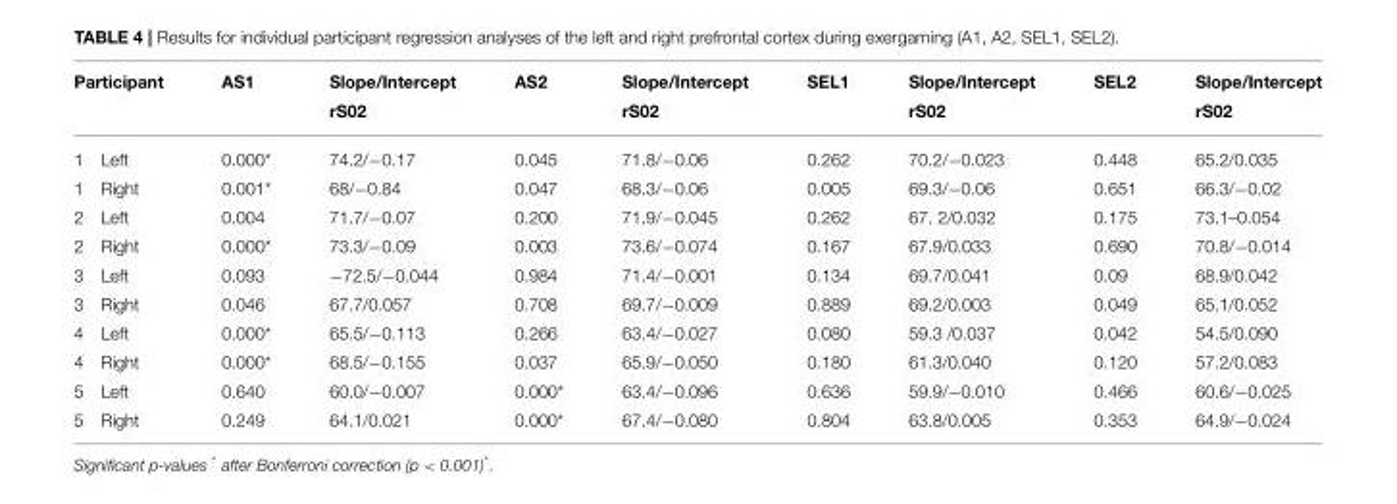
<table><thead><tr><td>Participant</td><td>AS1</td><td>Slope/Intercept rS02</td><td>AS2</td><td>Slope/Intercept rS02</td><td>SEL1</td><td>Slope/Intercept rS02</td><td>SEL2</td><td>Slope/Intercept rS02</td></tr></thead><tbody><tr><td>1 Left</td><td>0.000*</td><td>74.2/−0.17</td><td>0.045</td><td>71.8/−0.06</td><td>0.262</td><td>70.2/−0.023</td><td>0.448</td><td>65.2/0.035</td></tr><tr><td>1 Right</td><td>0.001*</td><td>68/−0.84</td><td>0.047</td><td>68.3/−0.06</td><td>0.005</td><td>69.3/−0.06</td><td>0.651</td><td>66.3/−0.02</td></tr><tr><td>2 Left</td><td>0.004</td><td>71.7/−0.07</td><td>0.200</td><td>71.9/−0.045</td><td>0.262</td><td>67. 2/0.032</td><td>0.175</td><td>73.1–0.054</td></tr><tr><td>2 Right</td><td>0.000*</td><td>73.3/−0.09</td><td>0.003</td><td>73.6/−0.074</td><td>0.167</td><td>67.9/0.033</td><td>0.690</td><td>70.8/−0.014</td></tr><tr><td>3 Left</td><td>0.093</td><td>−72.5/−0.044</td><td>0.984</td><td>71.4/−0.001</td><td>0.134</td><td>69.7/0.041</td><td>0.09</td><td>68.9/0.042</td></tr><tr><td>3 Right</td><td>0.046</td><td>67.7/0.057</td><td>0.708</td><td>69.7/−0.009</td><td>0.889</td><td>69.2/0.003</td><td>0.049</td><td>65.1/0.052</td></tr><tr><td>4 Left</td><td>0.000*</td><td>65.5/−0.113</td><td>0.266</td><td>63.4/−0.027</td><td>0.080</td><td>59.3 /0.037</td><td>0.042</td><td>54.5/0.090</td></tr><tr><td>4 Right</td><td>0.000*</td><td>68.5/−0.155</td><td>0.037</td><td>65.9/−0.050</td><td>0.180</td><td>61.3/0.040</td><td>0.120</td><td>57.2/0.083</td></tr><tr><td>5 Left</td><td>0.640</td><td>60.0/−0.007</td><td>0.000*</td><td>63.4/−0.096</td><td>0.636</td><td>59.9/−0.010</td><td>0.466</td><td>60.6/−0.025</td></tr><tr><td>5 Right</td><td>0.249</td><td>64.1/0.021</td><td>0.000*</td><td>67.4/−0.080</td><td>0.804</td><td>63.8/0.005</td><td>0.353</td><td>64.9/−0.024</td></tr></tbody></table>